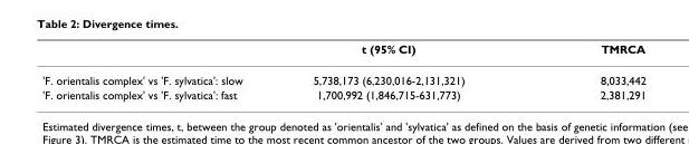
<table><thead><tr><td></td><td>t (95% CI)</td><td>TMRCA</td></tr></thead><tbody><tr><td>&#x27;F. orientalis complex&#x27; vs &#x27;F. sylvatica&#x27;: slow</td><td>5,738,173 (6,230,016-2,131,321)</td><td>8,033,442</td></tr><tr><td>&#x27;F. orientalis complex&#x27; vs &#x27;F. sylvatica&#x27;: fast</td><td>1,700,992 (1,846,715-631,773)</td><td>2,381,291</td></tr></tbody></table>